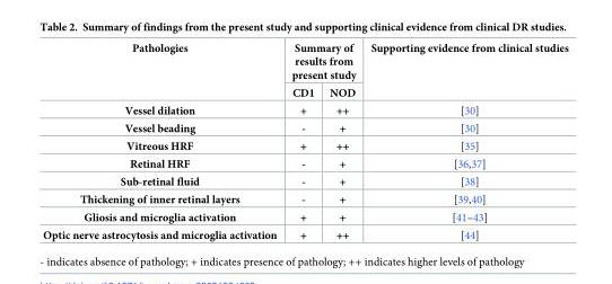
<table><thead><tr><td rowspan="2">Pathologies</td><td colspan="2">Summary of results from present study</td><td rowspan="2">Supporting evidence from clinical studies</td></tr><tr><td>CD1</td><td>NOD</td></tr></thead><tbody><tr><td>Vessel dilation</td><td>+</td><td>++</td><td>[30]</td></tr><tr><td>Vessel beading</td><td>-</td><td>+</td><td>[30]</td></tr><tr><td>Vitreous HRF</td><td>+</td><td>++</td><td>[35]</td></tr><tr><td>Retinal HRF</td><td>-</td><td>+</td><td>[36,37]</td></tr><tr><td>Sub-retinal fluid</td><td>-</td><td>+</td><td>[38]</td></tr><tr><td>Thickening of inner retinal layers</td><td>-</td><td>+</td><td>[39,40]</td></tr><tr><td>Gliosis and microglia activation</td><td>+</td><td>+</td><td>[41–43]</td></tr><tr><td>Optic nerve astrocytosis and microglia activation</td><td>+</td><td>++</td><td>[44]</td></tr></tbody></table>